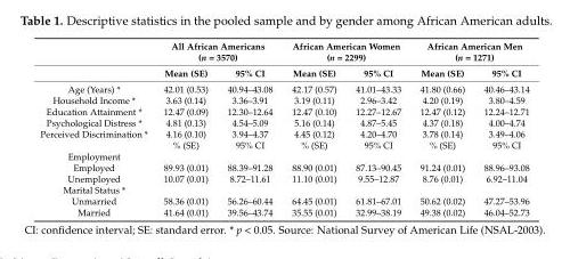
<table><thead><tr><td rowspan="2"></td><td colspan="2">All African Americans (n = 3570)</td><td colspan="2">African American Women (n = 2299)</td><td colspan="2">African American Men (n = 1271)</td></tr><tr><td>Mean (SE)</td><td>95% CI</td><td>Mean (SE)</td><td>95% CI</td><td>Mean (SE)</td><td>95% CI</td></tr></thead><tbody><tr><td>Age (Years) *</td><td>42.01 (0.53)</td><td>40.94–43.08</td><td>42.17 (0.57)</td><td>41.01–43.33</td><td>41.80 (0.66)</td><td>40.46–43.14</td></tr><tr><td>Household Income *</td><td>3.63 (0.14)</td><td>3.36–3.91</td><td>3.19 (0.11)</td><td>2.96–3.42</td><td>4.20 (0.19)</td><td>3.80–4.59</td></tr><tr><td>Education Attainment *</td><td>12.47 (0.09)</td><td>12.30–12.64</td><td>12.47 (0.10)</td><td>12.27–12.67</td><td>12.47 (0.12)</td><td>12.24–12.71</td></tr><tr><td>Psychological Distress *</td><td>4.81 (0.13)</td><td>4.54–5.09</td><td>5.16 (0.14)</td><td>4.87–5.45</td><td>4.37 (0.18)</td><td>4.00–4.74</td></tr><tr><td rowspan="2">Perceived Discrimination *</td><td>4.16 (0.10)</td><td>3.94–4.37</td><td>4.45 (0.12)</td><td>4.20–4.70</td><td>3.78 (0.14)</td><td>3.49–4.06</td></tr><tr><td>% (SE)</td><td>95% CI</td><td>% (SE)</td><td>95% CI</td><td>% (SE)</td><td>95% CI</td></tr><tr><td colspan="7">Employment</td></tr><tr><td>Employed</td><td>89.93 (0.01)</td><td>88.39–91.28</td><td>88.90 (0.01)</td><td>87.13–90.45</td><td>91.24 (0.01)</td><td>88.96–93.08</td></tr><tr><td>Unemployed</td><td>10.07 (0.01)</td><td>8.72–11.61</td><td>11.10 (0.01)</td><td>9.55–12.87</td><td>8.76 (0.01)</td><td>6.92–11.04</td></tr><tr><td colspan="7">Marital Status *</td></tr><tr><td>Unmarried</td><td>58.36 (0.01)</td><td>56.26–60.44</td><td>64.45 (0.01)</td><td>61.81–67.01</td><td>50.62 (0.02)</td><td>47.27–53.96</td></tr><tr><td>Married</td><td>41.64 (0.01)</td><td>39.56–43.74</td><td>35.55 (0.01)</td><td>32.99–38.19</td><td>49.38 (0.02)</td><td>46.04–52.73</td></tr></tbody></table>